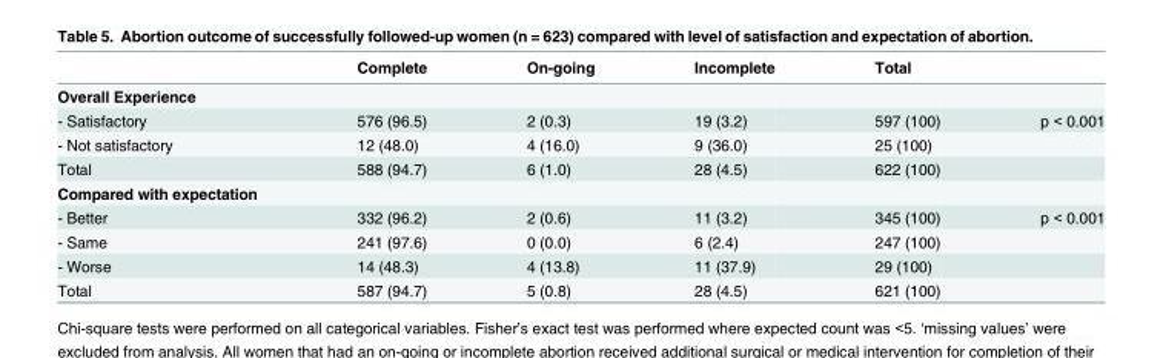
<table><thead><tr><td></td><td>Complete</td><td>On-going</td><td>Incomplete</td><td>Total</td><td></td></tr></thead><tbody><tr><td colspan="6">Overall Experience</td></tr><tr><td>- Satisfactory</td><td>576 (96.5)</td><td>2 (0.3)</td><td>19 (3.2)</td><td>597 (100)</td><td>p &lt; 0.001</td></tr><tr><td>- Not satisfactory</td><td>12 (48.0)</td><td>4 (16.0)</td><td>9 (36.0)</td><td>25 (100)</td><td></td></tr><tr><td>Total</td><td>588 (94.7)</td><td>6 (1.0)</td><td>28 (4.5)</td><td>622 (100)</td><td></td></tr><tr><td colspan="6">Compared with expectation</td></tr><tr><td>- Better</td><td>332 (96.2)</td><td>2 (0.6)</td><td>11 (3.2)</td><td>345 (100)</td><td>p &lt; 0.001</td></tr><tr><td>- Same</td><td>241 (97.6)</td><td>0 (0.0)</td><td>6 (2.4)</td><td>247 (100)</td><td></td></tr><tr><td>- Worse</td><td>14 (48.3)</td><td>4 (13.8)</td><td>11 (37.9)</td><td>29 (100)</td><td></td></tr><tr><td>Total</td><td>587 (94.7)</td><td>5 (0.8)</td><td>28 (4.5)</td><td>621 (100)</td><td></td></tr></tbody></table>